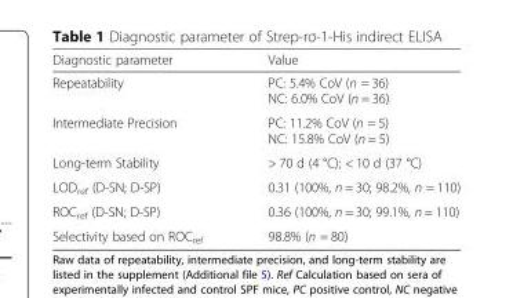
<table><thead><tr><td>Diagnostic parameter</td><td>Value</td></tr></thead><tbody><tr><td>Repeatability</td><td>PC: 5.4% CoV (n = 36) NC: 6.0% CoV (n = 36)</td></tr><tr><td>Intermediate Precision</td><td>PC: 11.2% CoV (n = 5) NC: 15.8% CoV (n = 5)</td></tr><tr><td>Long-term Stability</td><td>&gt; 70 d (4 °C); &lt; 10 d (37 °C)</td></tr><tr><td>LOD<sub>ref</sub> (D-SN; D-SP)</td><td>0.31 (100%, n = 30; 98.2%, n = 110)</td></tr><tr><td>ROC<sub>ref</sub> (D-SN; D-SP)</td><td>0.36 (100%, n = 30; 99.1%, n = 110)</td></tr><tr><td>Selectivity based on ROC<sub>ref</sub></td><td>98.8% (n = 80)</td></tr></tbody></table>